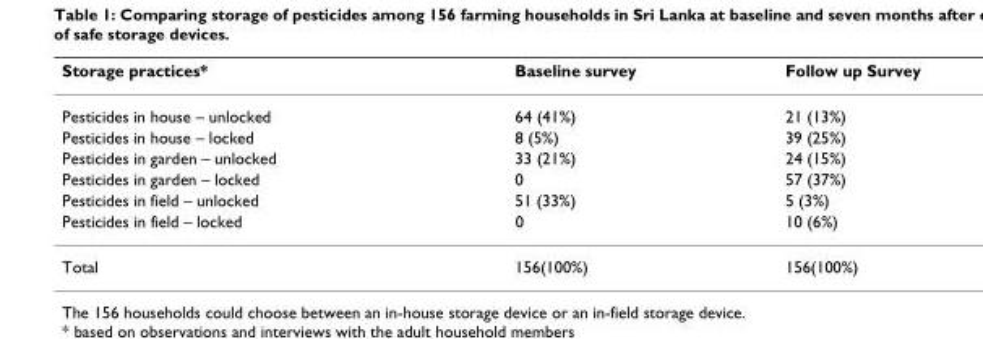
<table><thead><tr><td>Storage practices*</td><td>Baseline survey</td><td>Follow up Survey</td></tr></thead><tbody><tr><td>Pesticides in house – unlocked</td><td>64 (41%)</td><td>21 (13%)</td></tr><tr><td>Pesticides in house – locked</td><td>8 (5%)</td><td>39 (25%)</td></tr><tr><td>Pesticides in garden – unlocked</td><td>33 (21%)</td><td>24 (15%)</td></tr><tr><td>Pesticides in garden – locked</td><td>0</td><td>57 (37%)</td></tr><tr><td>Pesticides in field – unlocked</td><td>51 (33%)</td><td>5 (3%)</td></tr><tr><td>Pesticides in field – locked</td><td>0</td><td>10 (6%)</td></tr><tr><td>Total</td><td>156(100%)</td><td>156(100%)</td></tr></tbody></table>